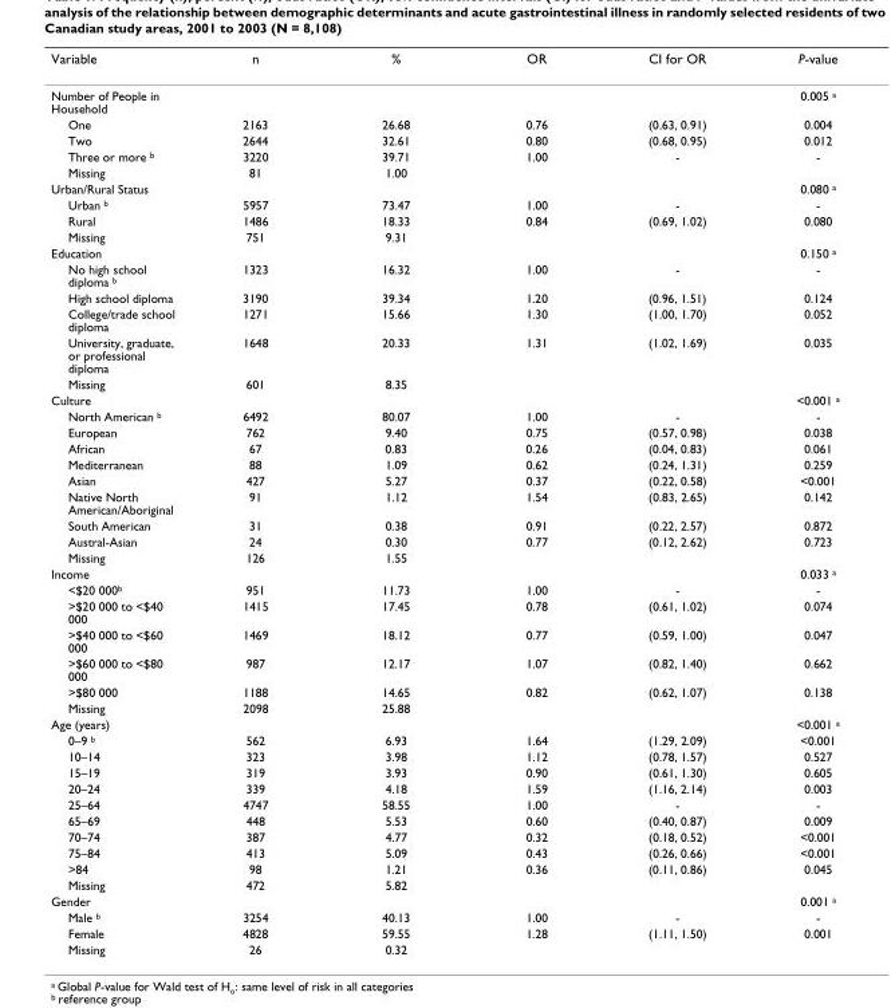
<table><thead><tr><td>Variable</td><td>n</td><td>%</td><td>OR</td><td>CI for OR</td><td>P-value</td></tr></thead><tbody><tr><td>Number of People in Household</td><td></td><td></td><td></td><td></td><td>0.005 <sup>a</sup></td></tr><tr><td>One</td><td>2163</td><td>26.68</td><td>0.76</td><td>(0.63, 0.91)</td><td>0.004</td></tr><tr><td>Two</td><td>2644</td><td>32.61</td><td>0.80</td><td>(0.68, 0.95)</td><td>0.012</td></tr><tr><td>Three or more <sup>b</sup></td><td>3220</td><td>39.71</td><td>1.00</td><td>-</td><td>-</td></tr><tr><td>Missing</td><td>81</td><td>1.00</td><td></td><td></td><td></td></tr><tr><td>Urban/Rural Status</td><td></td><td></td><td></td><td></td><td>0.080 <sup>a</sup></td></tr><tr><td>Urban <sup>b</sup></td><td>5957</td><td>73.47</td><td>1.00</td><td>-</td><td>-</td></tr><tr><td>Rural</td><td>1486</td><td>18.33</td><td>0.84</td><td>(0.69, 1.02)</td><td>0.080</td></tr><tr><td>Missing</td><td>751</td><td>9.31</td><td></td><td></td><td></td></tr><tr><td>Education</td><td></td><td></td><td></td><td></td><td>0.150 <sup>a</sup></td></tr><tr><td>No high school diploma <sup>b</sup></td><td>1323</td><td>16.32</td><td>1.00</td><td>-</td><td>-</td></tr><tr><td>High school diploma</td><td>3190</td><td>39.34</td><td>1.20</td><td>(0.96, 1.51)</td><td>0.124</td></tr><tr><td>College/trade school diploma</td><td>1271</td><td>15.66</td><td>1.30</td><td>(1.00, 1.70)</td><td>0.052</td></tr><tr><td>University, graduate, or professional diploma</td><td>1648</td><td>20.33</td><td>1.31</td><td>(1.02, 1.69)</td><td>0.035</td></tr><tr><td>Missing</td><td>601</td><td>8.35</td><td></td><td></td><td></td></tr><tr><td>Culture</td><td></td><td></td><td></td><td></td><td>&lt;0.001 <sup>a</sup></td></tr><tr><td>North American <sup>b</sup></td><td>6492</td><td>80.07</td><td>1.00</td><td>-</td><td>-</td></tr><tr><td>European</td><td>762</td><td>9.40</td><td>0.75</td><td>(0.57, 0.98)</td><td>0.038</td></tr><tr><td>African</td><td>67</td><td>0.83</td><td>0.26</td><td>(0.04, 0.83)</td><td>0.061</td></tr><tr><td>Mediterranean</td><td>88</td><td>1.09</td><td>0.62</td><td>(0.24, 1.31)</td><td>0.259</td></tr><tr><td>Asian</td><td>427</td><td>5.27</td><td>0.37</td><td>(0.22, 0.58)</td><td>&lt;0.001</td></tr><tr><td>Native North American/Aboriginal</td><td>91</td><td>1.12</td><td>1.54</td><td>(0.83, 2.65)</td><td>0.142</td></tr><tr><td>South American</td><td>31</td><td>0.38</td><td>0.91</td><td>(0.22, 2.57)</td><td>0.872</td></tr><tr><td>Austral-Asian</td><td>24</td><td>0.30</td><td>0.77</td><td>(0.12, 2.62)</td><td>0.723</td></tr><tr><td>Missing</td><td>126</td><td>1.55</td><td></td><td></td><td></td></tr><tr><td>Income</td><td></td><td></td><td></td><td></td><td>0.033 <sup>a</sup></td></tr><tr><td>&lt;$20 000<sup>b</sup></td><td>951</td><td>11.73</td><td>1.00</td><td>-</td><td>-</td></tr><tr><td>&gt;$20 000 to &lt;$40 000</td><td>1415</td><td>17.45</td><td>0.78</td><td>(0.61, 1.02)</td><td>0.074</td></tr><tr><td>&gt;$40 000 to &lt;$60 000</td><td>1469</td><td>18.12</td><td>0.77</td><td>(0.59, 1.00)</td><td>0.047</td></tr><tr><td>&gt;$60 000 to &lt;$80 000</td><td>987</td><td>12.17</td><td>1.07</td><td>(0.82, 1.40)</td><td>0.662</td></tr><tr><td>&gt;$80 000</td><td>1188</td><td>14.65</td><td>0.82</td><td>(0.62, 1.07)</td><td>0.138</td></tr><tr><td>Missing</td><td>2098</td><td>25.88</td><td></td><td></td><td></td></tr><tr><td>Age (years)</td><td></td><td></td><td></td><td></td><td>&lt;0.001 <sup>a</sup></td></tr><tr><td>0–9 <sup>b</sup></td><td>562</td><td>6.93</td><td>1.64</td><td>(1.29, 2.09)</td><td>&lt;0.001</td></tr><tr><td>10–14</td><td>323</td><td>3.98</td><td>1.12</td><td>(0.78, 1.57)</td><td>0.527</td></tr><tr><td>15–19</td><td>319</td><td>3.93</td><td>0.90</td><td>(0.61, 1.30)</td><td>0.605</td></tr><tr><td>20–24</td><td>339</td><td>4.18</td><td>1.59</td><td>(1.16, 2.14)</td><td>0.003</td></tr><tr><td>25–64</td><td>4747</td><td>58.55</td><td>1.00</td><td>-</td><td>-</td></tr><tr><td>65–69</td><td>448</td><td>5.53</td><td>0.60</td><td>(0.40, 0.87)</td><td>0.009</td></tr><tr><td>70–74</td><td>387</td><td>4.77</td><td>0.32</td><td>(0.18, 0.52)</td><td>&lt;0.001</td></tr><tr><td>75–84</td><td>413</td><td>5.09</td><td>0.43</td><td>(0.26, 0.66)</td><td>&lt;0.001</td></tr><tr><td>&gt;84</td><td>98</td><td>1.21</td><td>0.36</td><td>(0.11, 0.86)</td><td>0.045</td></tr><tr><td>Missing</td><td>472</td><td>5.82</td><td></td><td></td><td></td></tr><tr><td>Gender</td><td></td><td></td><td></td><td></td><td>0.001 <sup>a</sup></td></tr><tr><td>Male <sup>b</sup></td><td>3254</td><td>40.13</td><td>1.00</td><td>-</td><td>-</td></tr><tr><td>Female</td><td>4828</td><td>59.55</td><td>1.28</td><td>(1.11, 1.50)</td><td>0.001</td></tr><tr><td>Missing</td><td>26</td><td>0.32</td><td></td><td></td><td></td></tr></tbody></table>